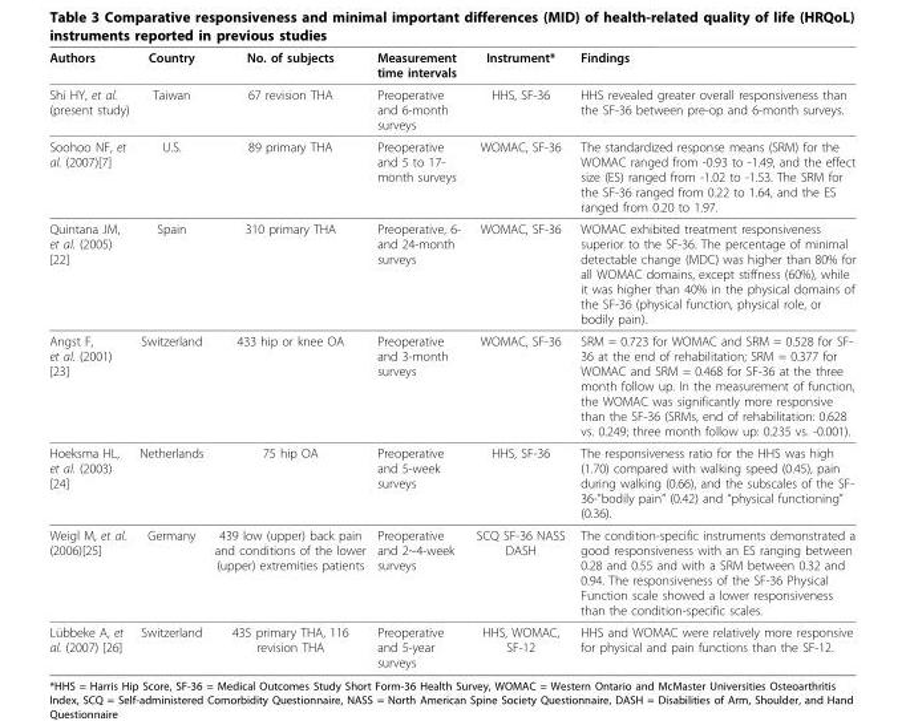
<table><thead><tr><td>Authors</td><td>Country</td><td>No. of subjects</td><td>Measurement time intervals</td><td>Instrument*</td><td>Findings</td></tr></thead><tbody><tr><td>Shi HY, et al. (present study)</td><td>Taiwan</td><td>67 revision THA</td><td>Preoperative and 6-month surveys</td><td>HHS, SF-36</td><td>HHS revealed greater overall responsiveness than the SF-36 between pre-op and 6-month surveys.</td></tr><tr><td>Soohoo NF, et al. (2007)[7]</td><td>U.S.</td><td>89 primary THA</td><td>Preoperative and 5 to 17- month surveys</td><td>WOMAC, SF-36</td><td>The standardized response means (SRM) for the WOMAC ranged from -0.93 to -1.49, and the effect size (ES) ranged from -1.02 to -1.53. The SRM for the SF-36 ranged from 0.22 to 1.64, and the ES ranged from 0.20 to 1.97.</td></tr><tr><td>Quintana JM, et al. (2005) [22]</td><td>Spain</td><td>310 primary THA</td><td>Preoperative, 6- and 24-month surveys</td><td>WOMAC, SF-36</td><td>WOMAC exhibited treatment responsiveness superior to the SF-36. The percentage of minimal detectable change (MDC) was higher than 80% for all WOMAC domains, except stiffness (60%), while it was higher than 40% in the physical domains of the SF-36 (physical function, physical role, or bodily pain).</td></tr><tr><td>Angst F, et al. (2001) [23]</td><td>Switzerland</td><td>433 hip or knee OA</td><td>Preoperative and 3-month surveys</td><td>WOMAC, SF-36</td><td>SRM = 0.723 for WOMAC and SRM = 0.528 for SF- 36 at the end of rehabilitation; SRM = 0.377 for WOMAC and SRM = 0.468 for SF-36 at the three month follow up. In the measurement of function, the WOMAC was significantly more responsive than the SF-36 (SRMs, end of rehabilitation: 0.628 vs. 0.249; three month follow up: 0.235 vs. -0.001).</td></tr><tr><td>Hoeksma HL, et al. (2003) [24]</td><td>Netherlands</td><td>75 hip OA</td><td>Preoperative and 5-week surveys</td><td>HHS, SF-36</td><td>The responsiveness ratio for the HHS was high (1.70) compared with walking speed (0.45), pain during walking (0.66), and the subscales of the SF- 36-&quot;bodily pain” (0.42) and “physical functioning” (0.36).</td></tr><tr><td>Weigl M, et al. (2006)[25]</td><td>Germany</td><td>439 low (upper) back pain and conditions of the lower (upper) extremities patients</td><td>Preoperative and 2~4-week surveys</td><td>SCQ SF-36 NASS DASH</td><td>The condition-specific instruments demonstrated a good responsiveness with an ES ranging between 0.28 and 0.55 and with a SRM between 0.32 and 0.94. The responsiveness of the SF-36 Physical Function scale showed a lower responsiveness than the condition-specific scales.</td></tr><tr><td>Lübbeke A, et al. (2007) [26]</td><td>Switzerland</td><td>435 primary THA, 116 revision THA</td><td>Preoperative and 5-year surveys</td><td>HHS, WOMAC, SF-12</td><td>HHS and WOMAC were relatively more responsive for physical and pain functions than the SF-12.</td></tr></tbody></table>